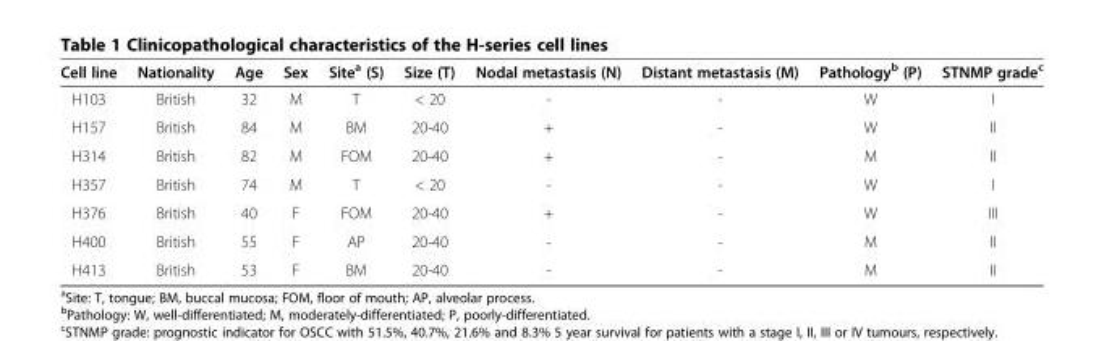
<table><thead><tr><td>Cell line</td><td>Nationality</td><td>Age</td><td>Sex</td><td>Site<sup>a</sup> (S)</td><td>Size (T)</td><td>Nodal metastasis (N)</td><td>Distant metastasis (M)</td><td>Pathology<sup>b</sup> (P)</td><td>STNMP grade<sup>c</sup></td></tr></thead><tbody><tr><td>H103</td><td>British</td><td>32</td><td>M</td><td>T</td><td>&lt; 20</td><td>-</td><td>-</td><td>W</td><td>I</td></tr><tr><td>H157</td><td>British</td><td>84</td><td>M</td><td>BM</td><td>20-40</td><td>+</td><td>-</td><td>W</td><td>II</td></tr><tr><td>H314</td><td>British</td><td>82</td><td>M</td><td>FOM</td><td>20-40</td><td>+</td><td>-</td><td>M</td><td>II</td></tr><tr><td>H357</td><td>British</td><td>74</td><td>M</td><td>T</td><td>&lt; 20</td><td>-</td><td>-</td><td>W</td><td>I</td></tr><tr><td>H376</td><td>British</td><td>40</td><td>F</td><td>FOM</td><td>20-40</td><td>+</td><td>-</td><td>W</td><td>III</td></tr><tr><td>H400</td><td>British</td><td>55</td><td>F</td><td>AP</td><td>20-40</td><td>-</td><td>-</td><td>M</td><td>II</td></tr><tr><td>H413</td><td>British</td><td>53</td><td>F</td><td>BM</td><td>20-40</td><td>-</td><td>-</td><td>M</td><td>II</td></tr></tbody></table>